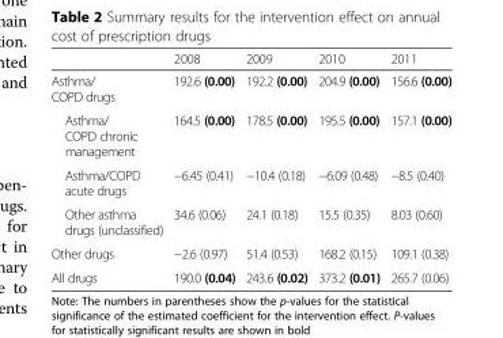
<table><thead><tr><td></td><td>2008</td><td>2009</td><td>2010</td><td>2011</td></tr></thead><tbody><tr><td>Asthma/ COPD drugs</td><td>192.6 (0.00)</td><td>192.2 (0.00)</td><td>204.9 (0.00)</td><td>156.6 (0.00)</td></tr><tr><td>Asthma/ COPD chronic management</td><td>164.5 (0.00)</td><td>178.5 (0.00)</td><td>195.5 (0.00)</td><td>157.1 (0.00)</td></tr><tr><td>Asthma/COPD acute drugs</td><td>−6.45 (0.41)</td><td>−10.4 (0.18)</td><td>−6.09 (0.48)</td><td>−8.5 (0.40)</td></tr><tr><td>Other asthma drugs (unclassified)</td><td>34.6 (0.06)</td><td>24.1 (0.18)</td><td>15.5 (0.35)</td><td>8.03 (0.60)</td></tr><tr><td>Other drugs</td><td>−2.6 (0.97)</td><td>51.4 (0.53)</td><td>168.2 (0.15)</td><td>109.1 (0.38)</td></tr><tr><td>All drugs</td><td>190.0 (0.04)</td><td>243.6 (0.02)</td><td>373.2 (0.01)</td><td>265.7 (0.06)</td></tr></tbody></table>